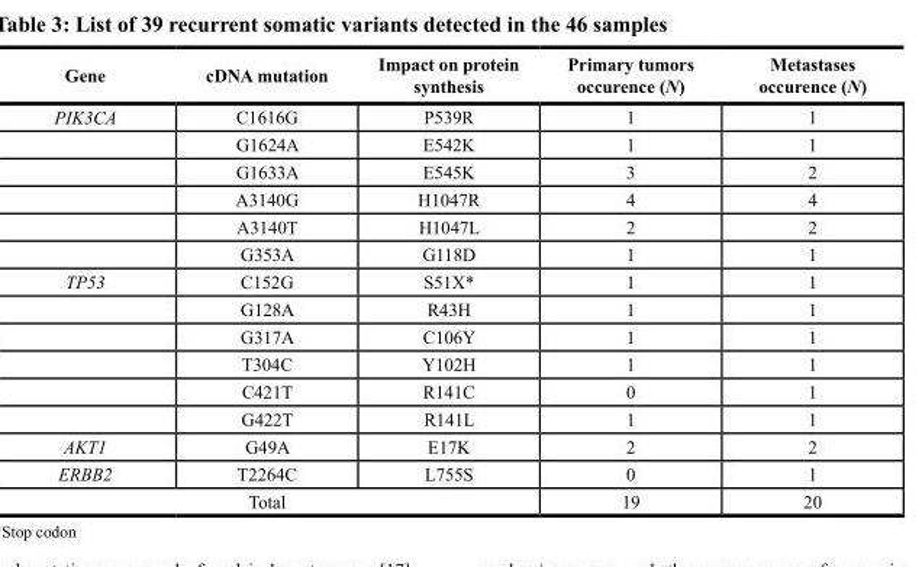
<table><thead><tr><td>Gene</td><td>cDNA mutation</td><td>Impact on protein synthesis</td><td>Primary tumors occurence (N)</td><td>Metastases occurence (N)</td></tr></thead><tbody><tr><td rowspan="6">PIK3CA</td><td>C1616G</td><td>P539R</td><td>1</td><td>1</td></tr><tr><td>G1624A</td><td>E542K</td><td>1</td><td>1</td></tr><tr><td>G1633A</td><td>E545K</td><td>3</td><td>2</td></tr><tr><td>A3140G</td><td>H1047R</td><td>4</td><td>4</td></tr><tr><td>A3140T</td><td>H1047L</td><td>2</td><td>2</td></tr><tr><td>G353A</td><td>G118D</td><td>1</td><td>1</td></tr><tr><td rowspan="6">TP53</td><td>C152G</td><td>S51X*</td><td>1</td><td>1</td></tr><tr><td>G128A</td><td>R43H</td><td>1</td><td>1</td></tr><tr><td>G317A</td><td>C106Y</td><td>1</td><td>1</td></tr><tr><td>T304C</td><td>Y102H</td><td>1</td><td>1</td></tr><tr><td>C421T</td><td>R141C</td><td>0</td><td>1</td></tr><tr><td>G422T</td><td>R141L</td><td>1</td><td>1</td></tr><tr><td>AKT1</td><td>G49A</td><td>E17K</td><td>2</td><td>2</td></tr><tr><td>ERBB2</td><td>T2264C</td><td>L755S</td><td>0</td><td>1</td></tr><tr><td colspan="3">Total</td><td>19</td><td>20</td></tr></tbody></table>